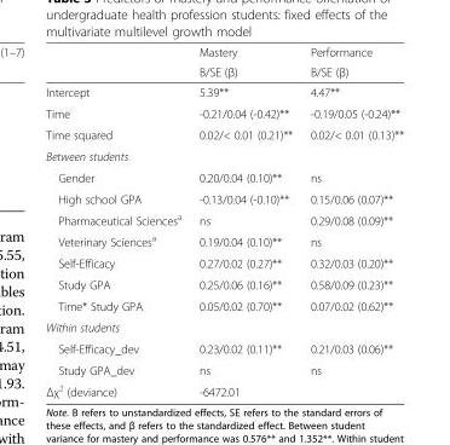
<table><thead><tr><td rowspan="2"></td><td rowspan="2">Mastery B/SE (β)</td><td rowspan="2">Performance B/SE (β)</td></tr><tr></tr></thead><tbody><tr><td>Intercept</td><td>5.39**</td><td>4.47**</td></tr><tr><td>Time</td><td>-0.21/0.04 (-0.42)**</td><td>-0.19/0.05 (-0.24)**</td></tr><tr><td>Time squared</td><td>0.02/&lt; 0.01 (0.21)**</td><td>0.02/&lt; 0.01 (0.13)**</td></tr><tr><td colspan="3">Between students</td></tr><tr><td>Gender</td><td>0.20/0.04 (0.10)**</td><td>ns</td></tr><tr><td>High school GPA</td><td>-0.13/0.04 (-0.10)**</td><td>0.15/0.06 (0.07)**</td></tr><tr><td>Pharmaceutical Sciences<sup>a</sup></td><td>ns</td><td>0.29/0.08 (0.09)**</td></tr><tr><td>Veterinary Sciences<sup>a</sup></td><td>0.19/0.04 (0.10)**</td><td>ns</td></tr><tr><td>Self-Efficacy</td><td>0.27/0.02 (0.27)**</td><td>0.32/0.03 (0.20)**</td></tr><tr><td>Study GPA</td><td>0.25/0.06 (0.16)**</td><td>0.58/0.09 (0.23)**</td></tr><tr><td>Time* Study GPA</td><td>0.05/0.02 (0.70)**</td><td>0.07/0.02 (0.62)**</td></tr><tr><td colspan="3">Within students</td></tr><tr><td>Self-Efficacy_dev</td><td>0.23/0.02 (0.11)**</td><td>0.21/0.03 (0.06)**</td></tr><tr><td>Study GPA_dev</td><td>ns</td><td>ns</td></tr><tr><td>Δχ<sup>2</sup> (deviance)</td><td colspan="2">-6472.01</td></tr></tbody></table>